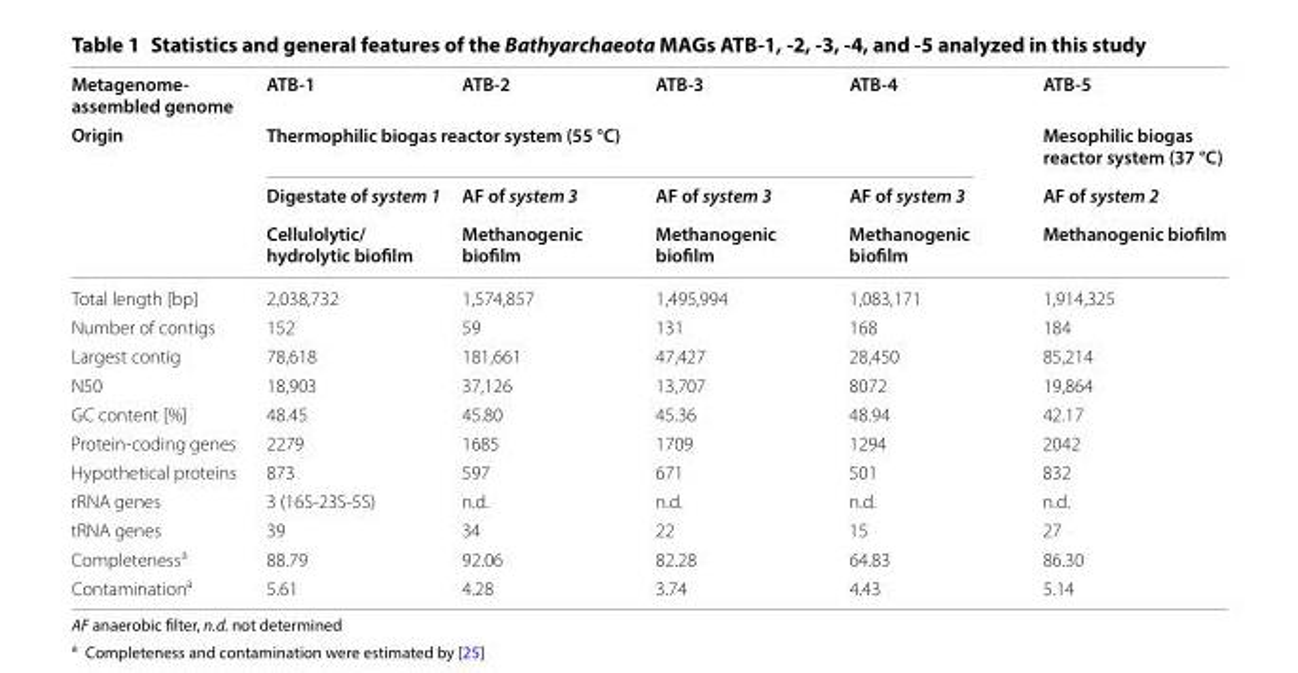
<table><thead><tr><td rowspan="4">Metagenome‑ assembled genome Origin</td><td>ATB‑1</td><td>ATB‑2</td><td>ATB‑3</td><td>ATB‑4</td><td rowspan="4">ATB‑5 Mesophilic biogas reactor system (37 °C) AF of system 2 Methanogenic biofilm</td></tr><tr><td colspan="4">Thermophilic biogas reactor system (55 °C)</td></tr><tr><td rowspan="2">Digestate of system 1 Cellulolytic/ hydrolytic biofilm</td><td rowspan="2">AF of system 3 Methanogenic biofilm</td><td rowspan="2">AF of system 3 Methanogenic biofilm</td><td rowspan="2">AF of system 3 Methanogenic biofilm</td></tr><tr></tr></thead><tbody><tr><td>Total length [bp]</td><td>2,038,732</td><td>1,574,857</td><td>1,495,994</td><td>1,083,171</td><td>1,914,325</td></tr><tr><td>Number of contigs</td><td>152</td><td>59</td><td>131</td><td>168</td><td>184</td></tr><tr><td>Largest contig</td><td>78,618</td><td>181,661</td><td>47,427</td><td>28,450</td><td>85,214</td></tr><tr><td>N50</td><td>18,903</td><td>37,126</td><td>13,707</td><td>8072</td><td>19,864</td></tr><tr><td>GC content [%]</td><td>48.45</td><td>45.80</td><td>45.36</td><td>48.94</td><td>42.17</td></tr><tr><td>Protein-coding genes</td><td>2279</td><td>1685</td><td>1709</td><td>1294</td><td>2042</td></tr><tr><td>Hypothetical proteins</td><td>873</td><td>597</td><td>671</td><td>501</td><td>832</td></tr><tr><td>rRNA genes</td><td>3 (16S-23S-5S)</td><td>n.d.</td><td>n.d.</td><td>n.d.</td><td>n.d.</td></tr><tr><td>tRNA genes</td><td>39</td><td>34</td><td>22</td><td>15</td><td>27</td></tr><tr><td>Completeness<sup>a</sup></td><td>88.79</td><td>92.06</td><td>82.28</td><td>64.83</td><td>86.30</td></tr><tr><td>Contamination<sup>a</sup></td><td>5.61</td><td>4.28</td><td>3.74</td><td>4.43</td><td>5.14</td></tr></tbody></table>